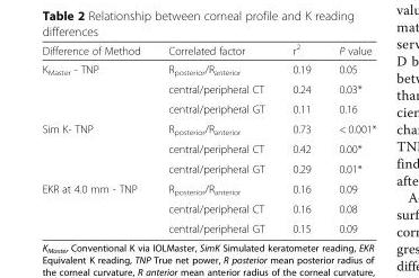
<table><thead><tr><td>Difference of Method</td><td>Correlated factor</td><td>r<sup>2</sup></td><td>P value</td></tr></thead><tbody><tr><td rowspan="3">K<sub>Master</sub> - TNP</td><td>R<sub>posterior</sub>/R<sub>anterior</sub></td><td>0.19</td><td>0.05</td></tr><tr><td>central/peripheral CT</td><td>0.24</td><td>0.03*</td></tr><tr><td>central/peripheral GT</td><td>0.11</td><td>0.16</td></tr><tr><td rowspan="3">Sim K- TNP</td><td>R<sub>posterior</sub>/R<sub>anterior</sub></td><td>0.73</td><td>&lt; 0.001*</td></tr><tr><td>central/peripheral CT</td><td>0.42</td><td>0.00*</td></tr><tr><td>central/peripheral GT</td><td>0.29</td><td>0.01*</td></tr><tr><td rowspan="3">EKR at 4.0 mm - TNP</td><td>R<sub>posterior</sub>/R<sub>anterior</sub></td><td>0.16</td><td>0.09</td></tr><tr><td>central/peripheral CT</td><td>0.16</td><td>0.08</td></tr><tr><td>central/peripheral GT</td><td>0.15</td><td>0.09</td></tr></tbody></table>